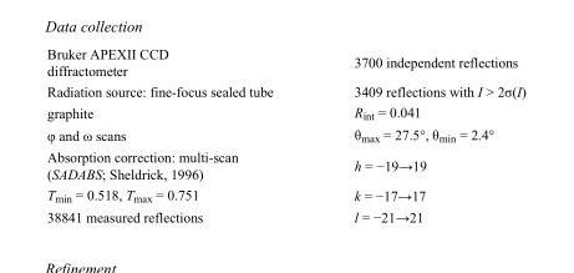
<table><tbody><tr><td>Bruker APEXII CCD diffractometer</td><td>3700 independent reflections</td></tr><tr><td>Radiation source: fine-focus sealed tube</td><td>3409 reflections with I &gt; 2σ(I)</td></tr><tr><td>graphite</td><td>R<sub>int</sub> = 0.041</td></tr><tr><td>φ and ω scans</td><td>θ<sub>max</sub> = 27.5°, θ<sub>min</sub> = 2.4°</td></tr><tr><td>Absorption correction: multi-scan (SADABS; Sheldrick, 1996)</td><td>h = −19→19</td></tr><tr><td>T<sub>min</sub> = 0.518, T<sub>max</sub> = 0.751</td><td>k = −17→17</td></tr><tr><td>38841 measured reflections</td><td>l = −21→21</td></tr></tbody></table>